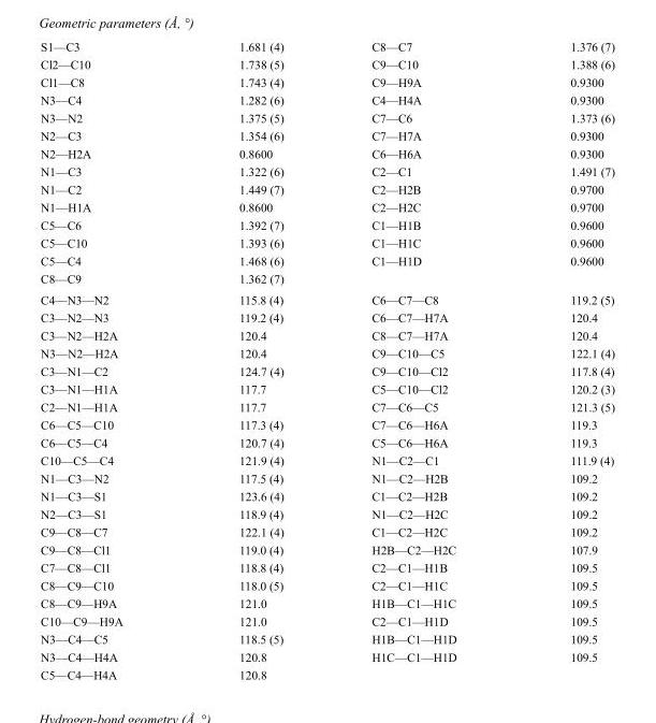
<table><tbody><tr><td>S1—C3</td><td>1.681 (4)</td><td>C8—C7</td><td>1.376 (7)</td></tr><tr><td>Cl2—C10</td><td>1.738 (5)</td><td>C9—C10</td><td>1.388 (6)</td></tr><tr><td>Cl1—C8</td><td>1.743 (4)</td><td>C9—H9A</td><td>0.9300</td></tr><tr><td>N3—C4</td><td>1.282 (6)</td><td>C4—H4A</td><td>0.9300</td></tr><tr><td>N3—N2</td><td>1.375 (5)</td><td>C7—C6</td><td>1.373 (6)</td></tr><tr><td>N2—C3</td><td>1.354 (6)</td><td>C7—H7A</td><td>0.9300</td></tr><tr><td>N2—H2A</td><td>0.8600</td><td>C6—H6A</td><td>0.9300</td></tr><tr><td>N1—C3</td><td>1.322 (6)</td><td>C2—C1</td><td>1.491 (7)</td></tr><tr><td>N1—C2</td><td>1.449 (7)</td><td>C2—H2B</td><td>0.9700</td></tr><tr><td>N1—H1A</td><td>0.8600</td><td>C2—H2C</td><td>0.9700</td></tr><tr><td>C5—C6</td><td>1.392 (7)</td><td>C1—H1B</td><td>0.9600</td></tr><tr><td>C5—C10</td><td>1.393 (6)</td><td>C1—H1C</td><td>0.9600</td></tr><tr><td>C5—C4</td><td>1.468 (6)</td><td>C1—H1D</td><td>0.9600</td></tr><tr><td>C8—C9</td><td>1.362 (7)</td><td></td><td></td></tr><tr><td>C4—N3—N2</td><td>115.8 (4)</td><td>C6—C7—C8</td><td>119.2 (5)</td></tr><tr><td>C3—N2—N3</td><td>119.2 (4)</td><td>C6—C7—H7A</td><td>120.4</td></tr><tr><td>C3—N2—H2A</td><td>120.4</td><td>C8—C7—H7A</td><td>120.4</td></tr><tr><td>N3—N2—H2A</td><td>120.4</td><td>C9—C10—C5</td><td>122.1 (4)</td></tr><tr><td>C3—N1—C2</td><td>124.7 (4)</td><td>C9—C10—Cl2</td><td>117.8 (4)</td></tr><tr><td>C3—N1—H1A</td><td>117.7</td><td>C5—C10—Cl2</td><td>120.2 (3)</td></tr><tr><td>C2—N1—H1A</td><td>117.7</td><td>C7—C6—C5</td><td>121.3 (5)</td></tr><tr><td>C6—C5—C10</td><td>117.3 (4)</td><td>C7—C6—H6A</td><td>119.3</td></tr><tr><td>C6—C5—C4</td><td>120.7 (4)</td><td>C5—C6—H6A</td><td>119.3</td></tr><tr><td>C10—C5—C4</td><td>121.9 (4)</td><td>N1—C2—C1</td><td>111.9 (4)</td></tr><tr><td>N1—C3—N2</td><td>117.5 (4)</td><td>N1—C2—H2B</td><td>109.2</td></tr><tr><td>N1—C3—S1</td><td>123.6 (4)</td><td>C1—C2—H2B</td><td>109.2</td></tr><tr><td>N2—C3—S1</td><td>118.9 (4)</td><td>N1—C2—H2C</td><td>109.2</td></tr><tr><td>C9—C8—C7</td><td>122.1 (4)</td><td>C1—C2—H2C</td><td>109.2</td></tr><tr><td>C9—C8—Cl1</td><td>119.0 (4)</td><td>H2B—C2—H2C</td><td>107.9</td></tr><tr><td>C7—C8—Cl1</td><td>118.8 (4)</td><td>C2—C1—H1B</td><td>109.5</td></tr><tr><td>C8—C9—C10</td><td>118.0 (5)</td><td>C2—C1—H1C</td><td>109.5</td></tr><tr><td>C8—C9—H9A</td><td>121.0</td><td>H1B—C1—H1C</td><td>109.5</td></tr><tr><td>C10—C9—H9A</td><td>121.0</td><td>C2—C1—H1D</td><td>109.5</td></tr><tr><td>N3—C4—C5</td><td>118.5 (5)</td><td>H1B—C1—H1D</td><td>109.5</td></tr><tr><td>N3—C4—H4A</td><td>120.8</td><td>H1C—C1—H1D</td><td>109.5</td></tr><tr><td>C5—C4—H4A</td><td>120.8</td><td></td><td></td></tr></tbody></table>